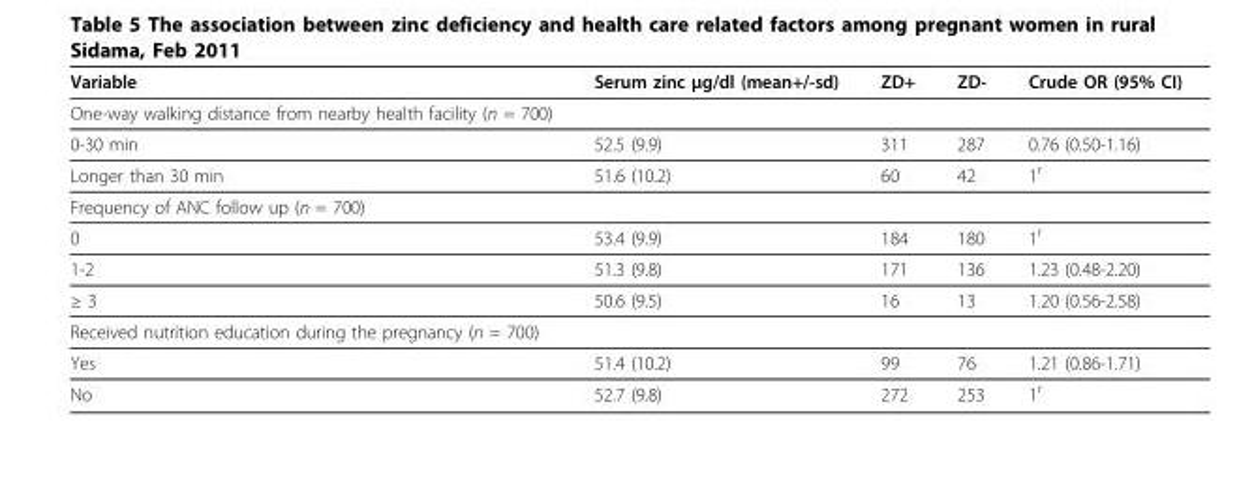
<table><thead><tr><td>Variable</td><td>Serum zinc μg/dl (mean+/-sd)</td><td>ZD+</td><td>ZD-</td><td>Crude OR (95% CI)</td></tr></thead><tbody><tr><td colspan="5">One-way walking distance from nearby health facility (n = 700)</td></tr><tr><td>0-30 min</td><td>52.5 (9.9)</td><td>311</td><td>287</td><td>0.76 (0.50-1.16)</td></tr><tr><td>Longer than 30 min</td><td>51.6 (10.2)</td><td>60</td><td>42</td><td>1<sup>r</sup></td></tr><tr><td colspan="5">Frequency of ANC follow up (n = 700)</td></tr><tr><td>0</td><td>53.4 (9.9)</td><td>184</td><td>180</td><td>1<sup>r</sup></td></tr><tr><td>1-2</td><td>51.3 (9.8)</td><td>171</td><td>136</td><td>1.23 (0.48-2.20)</td></tr><tr><td>≥ 3</td><td>50.6 (9.5)</td><td>16</td><td>13</td><td>1.20 (0.56-2.58)</td></tr><tr><td colspan="5">Received nutrition education during the pregnancy (n = 700)</td></tr><tr><td>Yes</td><td>51.4 (10.2)</td><td>99</td><td>76</td><td>1.21 (0.86-1.71)</td></tr><tr><td>No</td><td>52.7 (9.8)</td><td>272</td><td>253</td><td>1<sup>r</sup></td></tr></tbody></table>